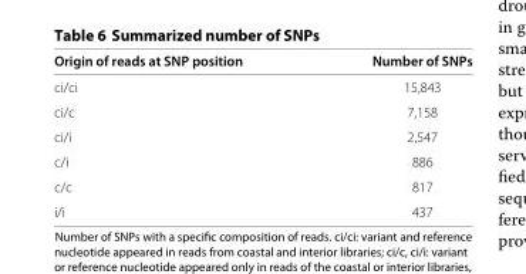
<table><thead><tr><td>Origin of reads at SNP position</td><td>Number of SNPs</td></tr></thead><tbody><tr><td>ci/ci</td><td>15,843</td></tr><tr><td>ci/c</td><td>7,158</td></tr><tr><td>ci/i</td><td>2,547</td></tr><tr><td>c/i</td><td>886</td></tr><tr><td>c/c</td><td>817</td></tr><tr><td>i/i</td><td>437</td></tr></tbody></table>